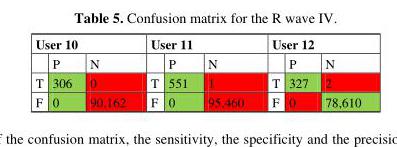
<table><thead><tr><td colspan="3">User 10</td><td colspan="3">User 11</td><td colspan="3">User 12</td></tr><tr><td></td><td>P</td><td>N</td><td></td><td>P</td><td>N</td><td></td><td>P</td><td>N</td></tr></thead><tbody><tr><td>T</td><td>306</td><td>0</td><td>T</td><td>551</td><td>1</td><td>T</td><td>327</td><td>2</td></tr><tr><td>F</td><td>0</td><td>90,162</td><td>F</td><td>0</td><td>95,460</td><td>F</td><td>0</td><td>78,610</td></tr></tbody></table>